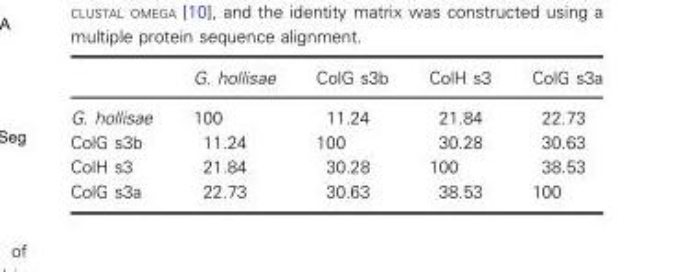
<table><thead><tr><td></td><td>G. hollisae</td><td>ColG s3b</td><td>ColH s3</td><td>ColG s3a</td></tr></thead><tbody><tr><td>G. hollisae</td><td>100</td><td>11.24</td><td>21.84</td><td>22.73</td></tr><tr><td>ColG s3b</td><td>11.24</td><td>100</td><td>30.28</td><td>30.63</td></tr><tr><td>ColH s3</td><td>21.84</td><td>30.28</td><td>100</td><td>38.53</td></tr><tr><td>ColG s3a</td><td>22.73</td><td>30.63</td><td>38.53</td><td>100</td></tr></tbody></table>